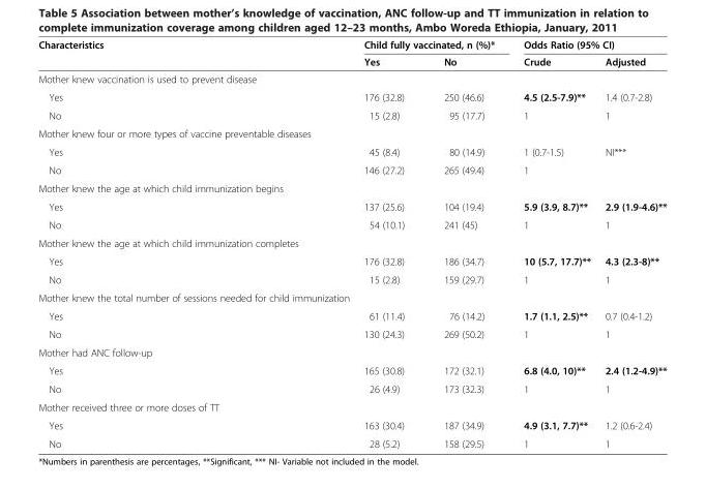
<table><thead><tr><td rowspan="2">Characteristics</td><td colspan="2">Child fully vaccinated, n (%)*</td><td colspan="2">Odds Ratio (95% CI)</td></tr><tr><td>Yes</td><td>No</td><td>Crude</td><td>Adjusted</td></tr></thead><tbody><tr><td colspan="5">Mother knew vaccination is used to prevent disease</td></tr><tr><td>Yes</td><td>176 (32.8)</td><td>250 (46.6)</td><td>4.5 (2.5-7.9)**</td><td>1.4 (0.7-2.8)</td></tr><tr><td>No</td><td>15 (2.8)</td><td>95 (17.7)</td><td>1</td><td>1</td></tr><tr><td colspan="5">Mother knew four or more types of vaccine preventable diseases</td></tr><tr><td>Yes</td><td>45 (8.4)</td><td>80 (14.9)</td><td>1 (0.7-1.5)</td><td>NI***</td></tr><tr><td>No</td><td>146 (27.2)</td><td>265 (49.4)</td><td>1</td><td></td></tr><tr><td colspan="5">Mother knew the age at which child immunization begins</td></tr><tr><td>Yes</td><td>137 (25.6)</td><td>104 (19.4)</td><td>5.9 (3.9, 8.7)**</td><td>2.9 (1.9-4.6)**</td></tr><tr><td>No</td><td>54 (10.1)</td><td>241 (45)</td><td>1</td><td>1</td></tr><tr><td colspan="5">Mother knew the age at which child immunization completes</td></tr><tr><td>Yes</td><td>176 (32.8)</td><td>186 (34.7)</td><td>10 (5.7, 17.7)**</td><td>4.3 (2.3-8)**</td></tr><tr><td>No</td><td>15 (2.8)</td><td>159 (29.7)</td><td>1</td><td>1</td></tr><tr><td colspan="5">Mother knew the total number of sessions needed for child immunization</td></tr><tr><td>Yes</td><td>61 (11.4)</td><td>76 (14.2)</td><td>1.7 (1.1, 2.5)**</td><td>0.7 (0.4-1.2)</td></tr><tr><td>No</td><td>130 (24.3)</td><td>269 (50.2)</td><td>1</td><td>1</td></tr><tr><td colspan="5">Mother had ANC follow-up</td></tr><tr><td>Yes</td><td>165 (30.8)</td><td>172 (32.1)</td><td>6.8 (4.0, 10)**</td><td>2.4 (1.2-4.9)**</td></tr><tr><td>No</td><td>26 (4.9)</td><td>173 (32.3)</td><td>1</td><td>1</td></tr><tr><td colspan="5">Mother received three or more doses of TT</td></tr><tr><td>Yes</td><td>163 (30.4)</td><td>187 (34.9)</td><td>4.9 (3.1, 7.7)**</td><td>1.2 (0.6-2.4)</td></tr><tr><td>No</td><td>28 (5.2)</td><td>158 (29.5)</td><td>1</td><td>1</td></tr></tbody></table>